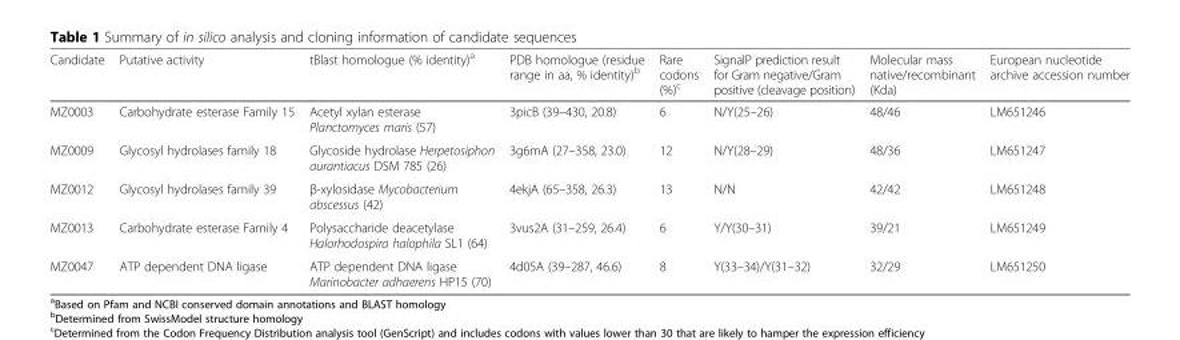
<table><thead><tr><td>Candidate</td><td>Putative activity</td><td>tBlast homologue (% identity)<sup>a</sup></td><td>PDB homologue (residue range in aa, % identity)<sup>b</sup></td><td>Rare codons (%)<sup>c</sup></td><td>SignalP prediction result for Gram negative/Gram positive (cleavage position)</td><td>Molecular mass native/recombinant (Kda)</td><td>European nucleotide archive accession number</td></tr></thead><tbody><tr><td>MZ0003</td><td>Carbohydrate esterase Family 15</td><td>Acetyl xylan esterase Planctomyces maris (57)</td><td>3picB (39–430, 20.8)</td><td>6</td><td>N/Y(25–26)</td><td>48/46</td><td>LM651246</td></tr><tr><td>MZ0009</td><td>Glycosyl hydrolases family 18</td><td>Glycoside hydrolase Herpetosiphon aurantiacus DSM 785 (26)</td><td>3g6mA (27–358, 23.0)</td><td>12</td><td>N/Y(28–29)</td><td>48/36</td><td>LM651247</td></tr><tr><td>MZ0012</td><td>Glycosyl hydrolases family 39</td><td>β-xylosidase Mycobacterium abscessus (42)</td><td>4ekjA (65–358, 26.3)</td><td>13</td><td>N/N</td><td>42/42</td><td>LM651248</td></tr><tr><td>MZ0013</td><td>Carbohydrate esterase Family 4</td><td>Polysaccharide deacetylase Halorhodospira halophila SL1 (64)</td><td>3vus2A (31–259, 26.4)</td><td>6</td><td>Y/Y(30–31)</td><td>39/21</td><td>LM651249</td></tr><tr><td>MZ0047</td><td>ATP dependent DNA ligase</td><td>ATP dependent DNA ligase Marinobacter adhaerens HP15 (70)</td><td>4d05A (39–287, 46.6)</td><td>8</td><td>Y(33–34)/Y(31–32)</td><td>32/29</td><td>LM651250</td></tr></tbody></table>